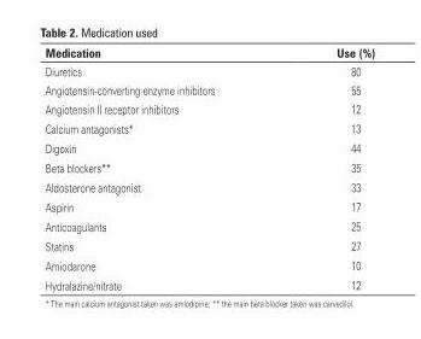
<table><thead><tr><td>Medication</td><td>Use (%)</td></tr></thead><tbody><tr><td>Diuretics</td><td>80</td></tr><tr><td>Angiotensin-converting enzyme inhibitors</td><td>55</td></tr><tr><td>Angiotensin II receptor inhibitors</td><td>12</td></tr><tr><td>Calcium antagonists*</td><td>13</td></tr><tr><td>Digoxin</td><td>44</td></tr><tr><td>Beta blockers**</td><td>35</td></tr><tr><td>Aldosterone antagonist</td><td>33</td></tr><tr><td>Aspirin</td><td>17</td></tr><tr><td>Anticoagulants</td><td>25</td></tr><tr><td>Statins</td><td>27</td></tr><tr><td>Amiodarone</td><td>10</td></tr><tr><td>Hydralazine/nitrate</td><td>12</td></tr></tbody></table>